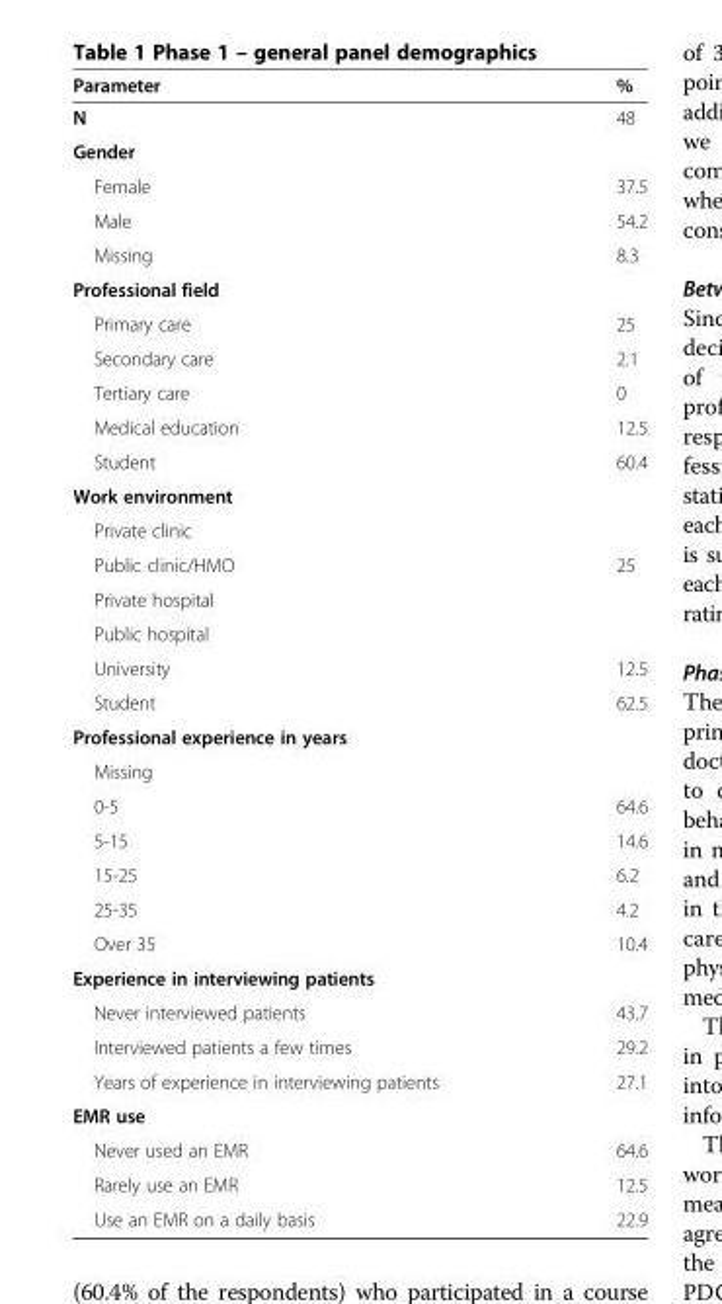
<table><thead><tr><td>Parameter</td><td>%</td></tr></thead><tbody><tr><td>N</td><td>48</td></tr><tr><td colspan="2">Gender</td></tr><tr><td>Female</td><td>37.5</td></tr><tr><td>Male</td><td>54.2</td></tr><tr><td>Missing</td><td>8.3</td></tr><tr><td colspan="2">Professional field</td></tr><tr><td>Primary care</td><td>25</td></tr><tr><td>Secondary care</td><td>2.1</td></tr><tr><td>Tertiary care</td><td>0</td></tr><tr><td>Medical education</td><td>12.5</td></tr><tr><td>Student</td><td>60.4</td></tr><tr><td colspan="2">Work environment</td></tr><tr><td colspan="2">Private clinic</td></tr><tr><td>Public clinic/HMO</td><td>25</td></tr><tr><td colspan="2">Private hospital</td></tr><tr><td colspan="2">Public hospital</td></tr><tr><td>University</td><td>12.5</td></tr><tr><td>Student</td><td>62.5</td></tr><tr><td colspan="2">Professional experience in years</td></tr><tr><td colspan="2">Missing</td></tr><tr><td>0-5</td><td>64.6</td></tr><tr><td>5-15</td><td>14.6</td></tr><tr><td>15-25</td><td>6.2</td></tr><tr><td>25-35</td><td>4.2</td></tr><tr><td>Over 35</td><td>10.4</td></tr><tr><td colspan="2">Experience in interviewing patients</td></tr><tr><td>Never interviewed patients</td><td>43.7</td></tr><tr><td>Interviewed patients a few times</td><td>29.2</td></tr><tr><td>Years of experience in interviewing patients</td><td>27.1</td></tr><tr><td colspan="2">EMR use</td></tr><tr><td>Never used an EMR</td><td>64.6</td></tr><tr><td>Rarely use an EMR</td><td>12.5</td></tr><tr><td>Use an EMR on a daily basis</td><td>22.9</td></tr></tbody></table>